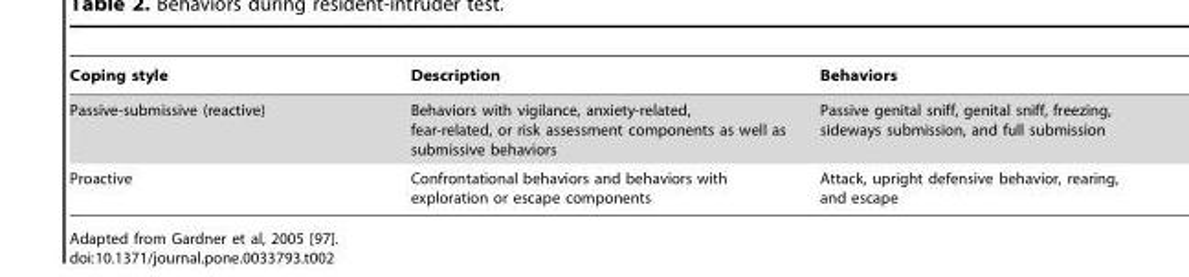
<table><thead><tr><td>Coping style</td><td>Description</td><td>Behaviors</td></tr></thead><tbody><tr><td>Passive-submissive (reactive)</td><td>Behaviors with vigilance, anxiety-related, fear-related, or risk assessment components as well as submissive behaviors</td><td>Passive genital sniff, genital sniff, freezing, sideways submission, and full submission</td></tr><tr><td>Proactive</td><td>Confrontational behaviors and behaviors with exploration or escape components</td><td>Attack, upright defensive behavior, rearing, and escape</td></tr></tbody></table>